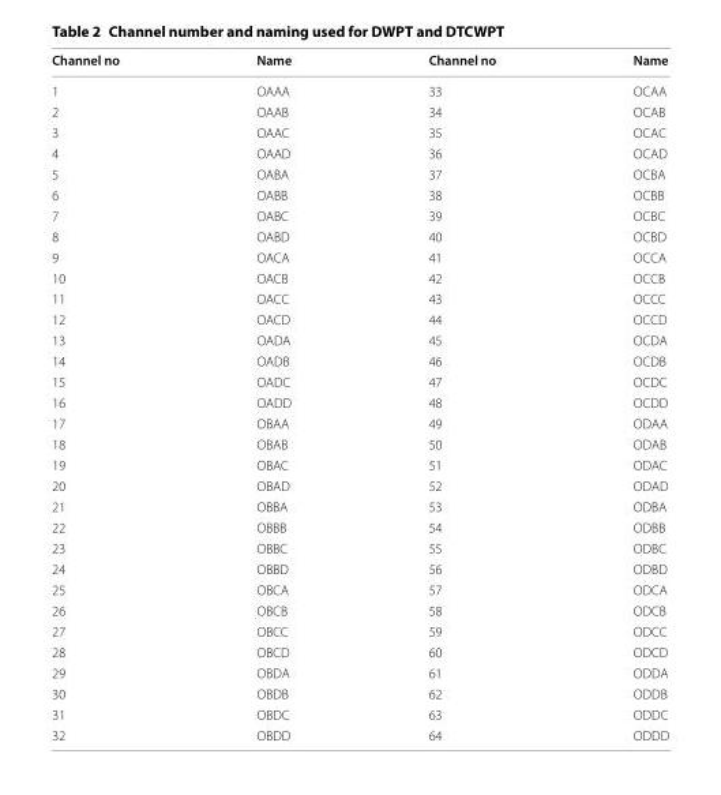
<table><thead><tr><td>Channel no</td><td>Name</td><td>Channel no</td><td>Name</td></tr></thead><tbody><tr><td>1</td><td>OAAA</td><td>33</td><td>OCAA</td></tr><tr><td>2</td><td>OAAB</td><td>34</td><td>OCAB</td></tr><tr><td>3</td><td>OAAC</td><td>35</td><td>OCAC</td></tr><tr><td>4</td><td>OAAD</td><td>36</td><td>OCAD</td></tr><tr><td>5</td><td>OABA</td><td>37</td><td>OCBA</td></tr><tr><td>6</td><td>OABB</td><td>38</td><td>OCBB</td></tr><tr><td>7</td><td>OABC</td><td>39</td><td>OCBC</td></tr><tr><td>8</td><td>OABD</td><td>40</td><td>OCBD</td></tr><tr><td>9</td><td>OACA</td><td>41</td><td>OCCA</td></tr><tr><td>10</td><td>OACB</td><td>42</td><td>OCCB</td></tr><tr><td>11</td><td>OACC</td><td>43</td><td>OCCC</td></tr><tr><td>12</td><td>OACD</td><td>44</td><td>OCCD</td></tr><tr><td>13</td><td>OADA</td><td>45</td><td>OCDA</td></tr><tr><td>14</td><td>OADB</td><td>46</td><td>OCDB</td></tr><tr><td>15</td><td>OADC</td><td>47</td><td>OCDC</td></tr><tr><td>16</td><td>OADD</td><td>48</td><td>OCDD</td></tr><tr><td>17</td><td>OBAA</td><td>49</td><td>ODAA</td></tr><tr><td>18</td><td>OBAB</td><td>50</td><td>ODAB</td></tr><tr><td>19</td><td>OBAC</td><td>51</td><td>ODAC</td></tr><tr><td>20</td><td>OBAD</td><td>52</td><td>ODAD</td></tr><tr><td>21</td><td>OBBA</td><td>53</td><td>ODBA</td></tr><tr><td>22</td><td>OBBB</td><td>54</td><td>ODBB</td></tr><tr><td>23</td><td>OBBC</td><td>55</td><td>ODBC</td></tr><tr><td>24</td><td>OBBD</td><td>56</td><td>ODBD</td></tr><tr><td>25</td><td>OBCA</td><td>57</td><td>ODCA</td></tr><tr><td>26</td><td>OBCB</td><td>58</td><td>ODCB</td></tr><tr><td>27</td><td>OBCC</td><td>59</td><td>ODCC</td></tr><tr><td>28</td><td>OBCD</td><td>60</td><td>ODCD</td></tr><tr><td>29</td><td>OBDA</td><td>61</td><td>ODDA</td></tr><tr><td>30</td><td>OBDB</td><td>62</td><td>ODDB</td></tr><tr><td>31</td><td>OBDC</td><td>63</td><td>ODDC</td></tr><tr><td>32</td><td>OBDD</td><td>64</td><td>ODDD</td></tr></tbody></table>